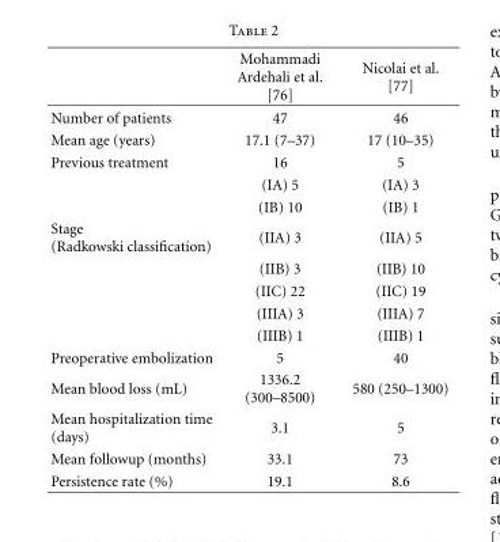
<table><thead><tr><td></td><td>Mohammadi Ardehali et al. [76]</td><td>Nicolai et al. [77]</td></tr></thead><tbody><tr><td>Number of patients</td><td>47</td><td>46</td></tr><tr><td>Mean age (years)</td><td>17.1 (7–37)</td><td>17 (10–35)</td></tr><tr><td rowspan="3">Previous treatment</td><td>16</td><td>5</td></tr><tr><td>(IA) 5</td><td>(IA) 3</td></tr><tr><td>(IB) 10</td><td>(IB) 1</td></tr><tr><td rowspan="5">Stage (Radkowski classification)</td><td>(IIA) 3</td><td>(IIA) 5</td></tr><tr><td>(IIB) 3</td><td>(IIB) 10</td></tr><tr><td>(IIC) 22</td><td>(IIC) 19</td></tr><tr><td>(IIIA) 3</td><td>(IIIA) 7</td></tr><tr><td>(IIIB) 1</td><td>(IIIB) 1</td></tr><tr><td>Preoperative embolization</td><td>5</td><td>40</td></tr><tr><td>Mean blood loss (mL)</td><td>1336.2 (300–8500)</td><td>580 (250–1300)</td></tr><tr><td>Mean hospitalization time (days)</td><td>3.1</td><td>5</td></tr><tr><td>Mean followup (months)</td><td>33.1</td><td>73</td></tr><tr><td>Persistence rate (%)</td><td>19.1</td><td>8.6</td></tr></tbody></table>